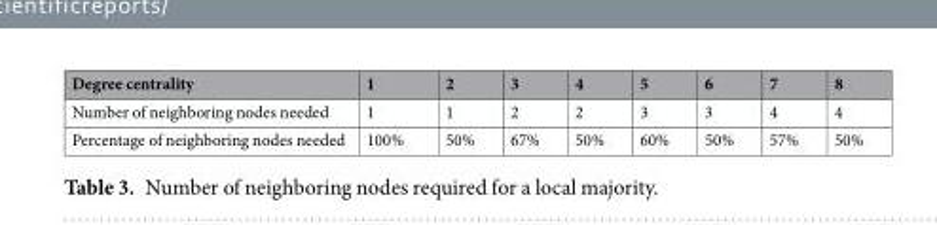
<table><thead><tr><td>Degree centrality</td><td>1</td><td>2</td><td>3</td><td>4</td><td>5</td><td>6</td><td>7</td><td>8</td></tr></thead><tbody><tr><td>Number of neighboring nodes needed</td><td>1</td><td>1</td><td>2</td><td>2</td><td>3</td><td>3</td><td>4</td><td>4</td></tr><tr><td>Percentage of neighboring nodes needed</td><td>100%</td><td>50%</td><td>67%</td><td>50%</td><td>60%</td><td>50%</td><td>57%</td><td>50%</td></tr></tbody></table>